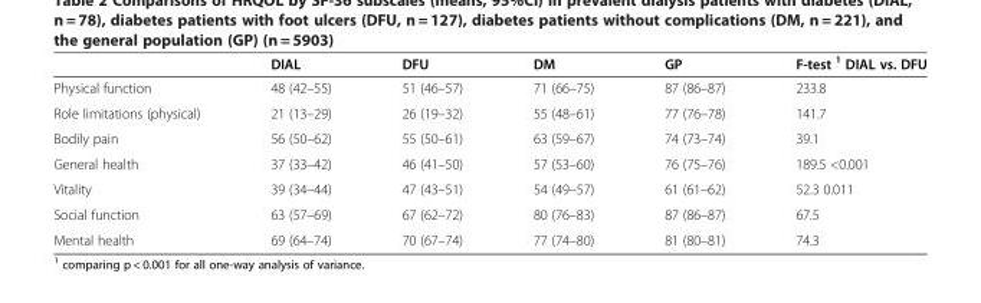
<table><thead><tr><td></td><td>DIAL</td><td>DFU</td><td>DM</td><td>GP</td><td>F-test <sup>1</sup> DIAL vs. DFU</td></tr></thead><tbody><tr><td>Physical function</td><td>48 (42–55)</td><td>51 (46–57)</td><td>71 (66–75)</td><td>87 (86–87)</td><td>233.8</td></tr><tr><td>Role limitations (physical)</td><td>21 (13–29)</td><td>26 (19–32)</td><td>55 (48–61)</td><td>77 (76–78)</td><td>141.7</td></tr><tr><td>Bodily pain</td><td>56 (50–62)</td><td>55 (50–61)</td><td>63 (59–67)</td><td>74 (73–74)</td><td>39.1</td></tr><tr><td>General health</td><td>37 (33–42)</td><td>46 (41–50)</td><td>57 (53–60)</td><td>76 (75–76)</td><td>189.5 &lt;0.001</td></tr><tr><td>Vitality</td><td>39 (34–44)</td><td>47 (43–51)</td><td>54 (49–57)</td><td>61 (61–62)</td><td>52.3 0.011</td></tr><tr><td>Social function</td><td>63 (57–69)</td><td>67 (62–72)</td><td>80 (76–83)</td><td>87 (86–87)</td><td>67.5</td></tr><tr><td>Mental health</td><td>69 (64–74)</td><td>70 (67–74)</td><td>77 (74–80)</td><td>81 (80–81)</td><td>74.3</td></tr></tbody></table>